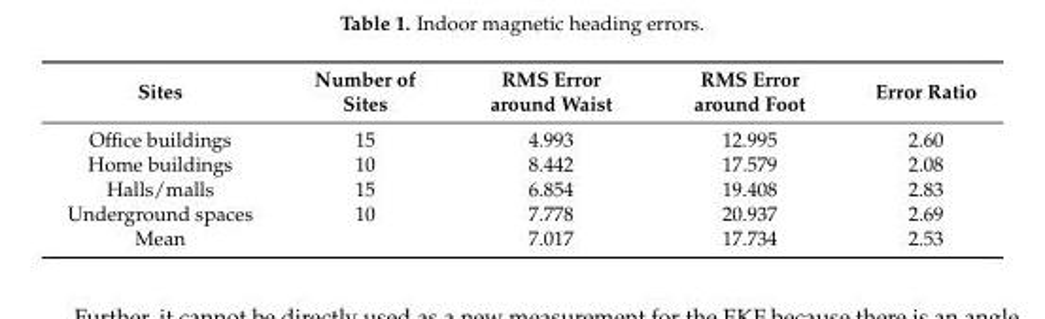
<table><thead><tr><td>Sites</td><td>Number of Sites</td><td>RMS Error around Waist</td><td>RMS Error around Foot</td><td>Error Ratio</td></tr></thead><tbody><tr><td>Office buildings</td><td>15</td><td>4.993</td><td>12.995</td><td>2.60</td></tr><tr><td>Home buildings</td><td>10</td><td>8.442</td><td>17.579</td><td>2.08</td></tr><tr><td>Halls/malls</td><td>15</td><td>6.854</td><td>19.408</td><td>2.83</td></tr><tr><td>Underground spaces</td><td>10</td><td>7.778</td><td>20.937</td><td>2.69</td></tr><tr><td>Mean</td><td></td><td>7.017</td><td>17.734</td><td>2.53</td></tr></tbody></table>